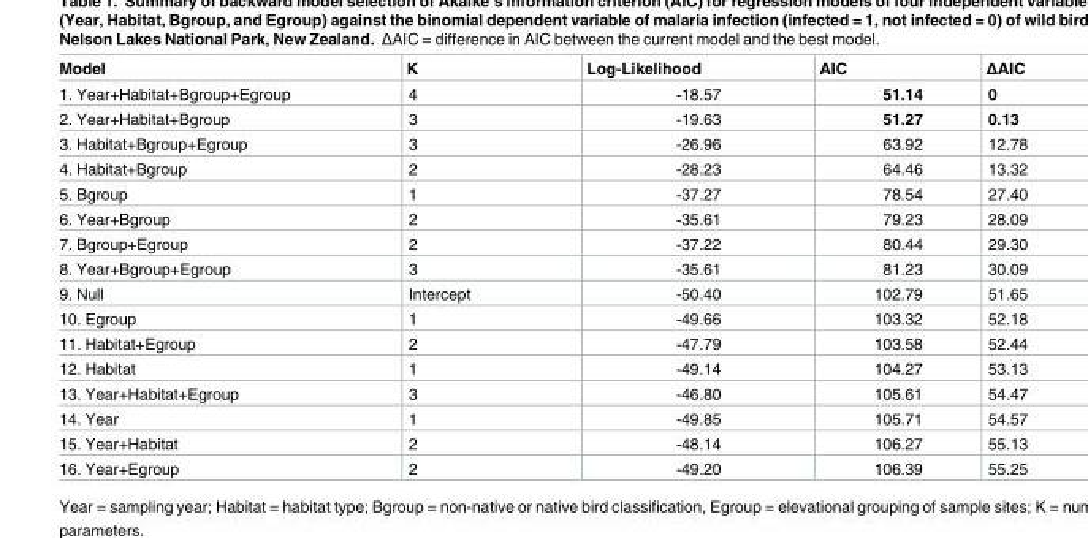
<table><thead><tr><td>Model</td><td>K</td><td>Log-Likelihood</td><td>AIC</td><td>ΔAIC</td></tr></thead><tbody><tr><td>1. Year+Habitat+Bgroup+Egroup</td><td>4</td><td>-18.57</td><td>51.14</td><td>0</td></tr><tr><td>2. Year+Habitat+Bgroup</td><td>3</td><td>-19.63</td><td>51.27</td><td>0.13</td></tr><tr><td>3. Habitat+Bgroup+Egroup</td><td>3</td><td>-26.96</td><td>63.92</td><td>12.78</td></tr><tr><td>4. Habitat+Bgroup</td><td>2</td><td>-28.23</td><td>64.46</td><td>13.32</td></tr><tr><td>5. Bgroup</td><td>1</td><td>-37.27</td><td>78.54</td><td>27.40</td></tr><tr><td>6. Year+Bgroup</td><td>2</td><td>-35.61</td><td>79.23</td><td>28.09</td></tr><tr><td>7. Bgroup+Egroup</td><td>2</td><td>-37.22</td><td>80.44</td><td>29.30</td></tr><tr><td>8. Year+Bgroup+Egroup</td><td>3</td><td>-35.61</td><td>81.23</td><td>30.09</td></tr><tr><td>9. Null</td><td>Intercept</td><td>-50.40</td><td>102.79</td><td>51.65</td></tr><tr><td>10. Egroup</td><td>1</td><td>-49.66</td><td>103.32</td><td>52.18</td></tr><tr><td>11. Habitat+Egroup</td><td>2</td><td>-47.79</td><td>103.58</td><td>52.44</td></tr><tr><td>12. Habitat</td><td>1</td><td>-49.14</td><td>104.27</td><td>53.13</td></tr><tr><td>13. Year+Habitat+Egroup</td><td>3</td><td>-46.80</td><td>105.61</td><td>54.47</td></tr><tr><td>14. Year</td><td>1</td><td>-49.85</td><td>105.71</td><td>54.57</td></tr><tr><td>15. Year+Habitat</td><td>2</td><td>-48.14</td><td>106.27</td><td>55.13</td></tr><tr><td>16. Year+Egroup</td><td>2</td><td>-49.20</td><td>106.39</td><td>55.25</td></tr></tbody></table>